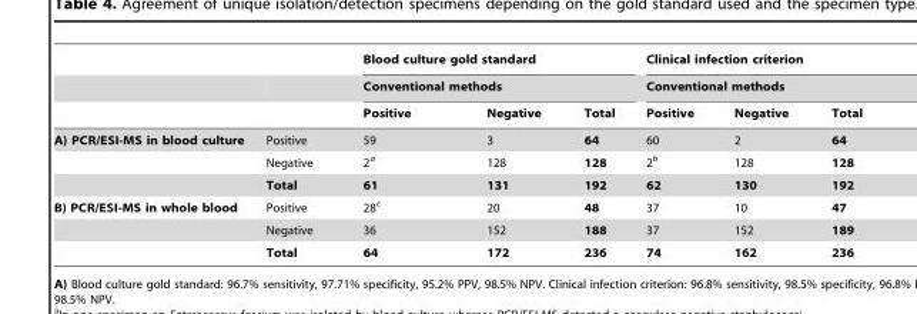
<table><thead><tr><td rowspan="3"></td><td rowspan="3"></td><td rowspan="2" colspan="3">Blood culture gold standard Conventional methods</td><td rowspan="2" colspan="3">Clinical infection criterion Conventional methods</td></tr><tr></tr><tr><td>Positive</td><td>Negative</td><td>Total</td><td>Positive</td><td>Negative</td><td>Total</td></tr></thead><tbody><tr><td rowspan="3">A) PCR/ESI-MS in blood culture</td><td>Positive</td><td>59</td><td>3</td><td>64</td><td>60</td><td>2</td><td>64</td></tr><tr><td>Negative</td><td>2<sup>a</sup></td><td>128</td><td>128</td><td>2<sup>b</sup></td><td>128</td><td>128</td></tr><tr><td>Total</td><td>61</td><td>131</td><td>192</td><td>62</td><td>130</td><td>192</td></tr><tr><td rowspan="3">B) PCR/ESI-MS in whole blood</td><td>Positive</td><td>28<sup>c</sup></td><td>20</td><td>48</td><td>37</td><td>10</td><td>47</td></tr><tr><td>Negative</td><td>36</td><td>152</td><td>188</td><td>37</td><td>152</td><td>189</td></tr><tr><td>Total</td><td>64</td><td>172</td><td>236</td><td>74</td><td>162</td><td>236</td></tr></tbody></table>